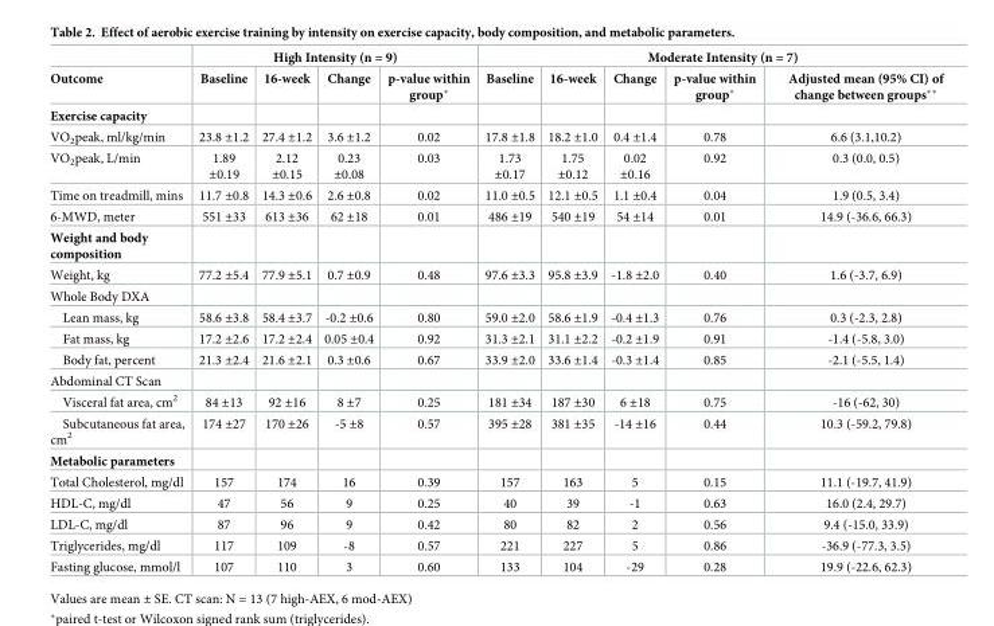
<table><thead><tr><td rowspan="2">Outcome</td><td colspan="4">High Intensity (n = 9)</td><td colspan="5">Moderate Intensity (n = 7)</td></tr><tr><td>Baseline</td><td>16-week</td><td>Change</td><td>p-value within group*</td><td>Baseline</td><td>16-week</td><td>Change</td><td>p-value within group*</td><td>Adjusted mean (95% CI) of change between groups**</td></tr></thead><tbody><tr><td colspan="10">Exercise capacity</td></tr><tr><td>VO<sub>2</sub>peak, ml/kg/min</td><td>23.8 ±1.2</td><td>27.4 ±1.2</td><td>3.6 ±1.2</td><td>0.02</td><td>17.8 ±1.8</td><td>18.2 ±1.0</td><td>0.4 ±1.4</td><td>0.78</td><td>6.6 (3.1,10.2)</td></tr><tr><td>VO<sub>2</sub>peak, L/min</td><td>1.89 ±0.19</td><td>2.12 ±0.15</td><td>0.23 ±0.08</td><td>0.03</td><td>1.73 ±0.17</td><td>1.75 ±0.12</td><td>0.02 ±0.16</td><td>0.92</td><td>0.3 (0.0, 0.5)</td></tr><tr><td>Time on treadmill, mins</td><td>11.7 ±0.8</td><td>14.3 ±0.6</td><td>2.6 ±0.8</td><td>0.02</td><td>11.0 ±0.5</td><td>12.1 ±0.5</td><td>1.1 ±0.4</td><td>0.04</td><td>1.9 (0.5, 3.4)</td></tr><tr><td>6-MWD, meter</td><td>551 ±33</td><td>613 ±36</td><td>62 ±18</td><td>0.01</td><td>486 ±19</td><td>540 ±19</td><td>54 ±14</td><td>0.01</td><td>14.9 (-36.6, 66.3)</td></tr><tr><td colspan="10">Weight and body composition</td></tr><tr><td>Weight, kg</td><td>77.2 ±5.4</td><td>77.9 ±5.1</td><td>0.7 ±0.9</td><td>0.48</td><td>97.6 ±3.3</td><td>95.8 ±3.9</td><td>-1.8 ±2.0</td><td>0.40</td><td>1.6 (-3.7, 6.9)</td></tr><tr><td colspan="10">Whole Body DXA</td></tr><tr><td>Lean mass, kg</td><td>58.6 ±3.8</td><td>58.4 ±3.7</td><td>-0.2 ±0.6</td><td>0.80</td><td>59.0 ±2.0</td><td>58.6 ±1.9</td><td>-0.4 ±1.3</td><td>0.76</td><td>0.3 (-2.3, 2.8)</td></tr><tr><td>Fat mass, kg</td><td>17.2 ±2.6</td><td>17.2 ±2.4</td><td>0.05 ±0.4</td><td>0.92</td><td>31.3 ±2.1</td><td>31.1 ±2.2</td><td>-0.2 ±1.9</td><td>0.91</td><td>-1.4 (-5.8, 3.0)</td></tr><tr><td>Body fat, percent</td><td>21.3 ±2.4</td><td>21.6 ±2.1</td><td>0.3 ±0.6</td><td>0.67</td><td>33.9 ±2.0</td><td>33.6 ±1.4</td><td>-0.3 ±1.4</td><td>0.85</td><td>-2.1 (-5.5, 1.4)</td></tr><tr><td colspan="10">Abdominal CT Scan</td></tr><tr><td>Visceral fat area, cm<sup>2</sup></td><td>84 ±13</td><td>92 ±16</td><td>8 ±7</td><td>0.25</td><td>181 ±34</td><td>187 ±30</td><td>6 ±18</td><td>0.75</td><td>-16 (-62, 30)</td></tr><tr><td>Subcutaneous fat area, cm<sup>2</sup></td><td>174 ±27</td><td>170 ±26</td><td>-5 ±8</td><td>0.57</td><td>395 ±28</td><td>381 ±35</td><td>-14 ±16</td><td>0.44</td><td>10.3 (-59.2, 79.8)</td></tr><tr><td colspan="10">Metabolic parameters</td></tr><tr><td>Total Cholesterol, mg/dl</td><td>157</td><td>174</td><td>16</td><td>0.39</td><td>157</td><td>163</td><td>5</td><td>0.15</td><td>11.1 (-19.7, 41.9)</td></tr><tr><td>HDL-C, mg/dl</td><td>47</td><td>56</td><td>9</td><td>0.25</td><td>40</td><td>39</td><td>-1</td><td>0.63</td><td>16.0 (2.4, 29.7)</td></tr><tr><td>LDL-C, mg/dl</td><td>87</td><td>96</td><td>9</td><td>0.42</td><td>80</td><td>82</td><td>2</td><td>0.56</td><td>9.4 (-15.0, 33.9)</td></tr><tr><td>Triglycerides, mg/dl</td><td>117</td><td>109</td><td>-8</td><td>0.57</td><td>221</td><td>227</td><td>5</td><td>0.86</td><td>-36.9 (-77.3, 3.5)</td></tr><tr><td>Fasting glucose, mmol/l</td><td>107</td><td>110</td><td>3</td><td>0.60</td><td>133</td><td>104</td><td>-29</td><td>0.28</td><td>19.9 (-22.6, 62.3)</td></tr></tbody></table>